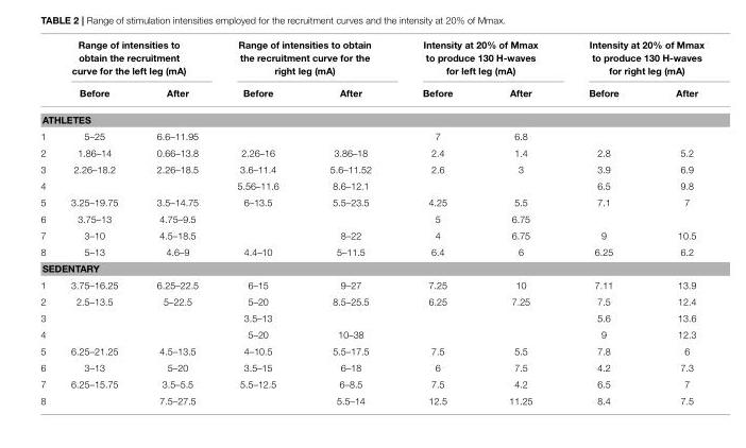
<table><thead><tr><td rowspan="2"></td><td colspan="2">Range of intensities to obtain the recruitment curve for the left leg (mA)</td><td colspan="2">Range of intensities to obtain the recruitment curve for the right leg (mA)</td><td colspan="2">Intensity at 20% of Mmax to produce 130 H-waves for left leg (mA)</td><td colspan="2">Intensity at 20% of Mmax to produce 130 H-waves for right leg (mA)</td></tr><tr><td>Before</td><td>After</td><td>Before</td><td>After</td><td>Before</td><td>After</td><td>Before</td><td>After</td></tr></thead><tbody><tr><td colspan="9">ATHLETES</td></tr><tr><td>1</td><td>5–25</td><td>6.6–11.95</td><td></td><td></td><td>7</td><td>6.8</td><td></td><td></td></tr><tr><td>2</td><td>1.86–14</td><td>0.66–13.8</td><td>2.26–16</td><td>3.86–18</td><td>2.4</td><td>1.4</td><td>2.8</td><td>5.2</td></tr><tr><td>3</td><td>2.26–18.2</td><td>2.26–18.5</td><td>3.6–11.4</td><td>5.6–11.52</td><td>2.6</td><td>3</td><td>3.9</td><td>6.9</td></tr><tr><td>4</td><td></td><td></td><td>5.56–11.6</td><td>8.6–12.1</td><td></td><td></td><td>6.5</td><td>9.8</td></tr><tr><td>5</td><td>3.25–19.75</td><td>3.5–14.75</td><td>6–13.5</td><td>5.5–23.5</td><td>4.25</td><td>5.5</td><td>7.1</td><td>7</td></tr><tr><td>6</td><td>3.75–13</td><td>4.75–9.5</td><td></td><td></td><td>5</td><td>6.75</td><td></td><td></td></tr><tr><td>7</td><td>3–10</td><td>4.5–18.5</td><td></td><td>8–22</td><td>4</td><td>6.75</td><td>9</td><td>10.5</td></tr><tr><td>8</td><td>5–13</td><td>4.6–9</td><td>4.4–10</td><td>5–11.5</td><td>6.4</td><td>6</td><td>6.25</td><td>6.2</td></tr><tr><td colspan="9">SEDENTARY</td></tr><tr><td>1</td><td>3.75–16.25</td><td>6.25–22.5</td><td>6–15</td><td>9–27</td><td>7.25</td><td>10</td><td>7.11</td><td>13.9</td></tr><tr><td>2</td><td>2.5–13.5</td><td>5–22.5</td><td>5–20</td><td>8.5–25.5</td><td>6.25</td><td>7.25</td><td>7.5</td><td>12.4</td></tr><tr><td>3</td><td></td><td></td><td>3.5–13</td><td></td><td></td><td></td><td>5.6</td><td>13.6</td></tr><tr><td>4</td><td></td><td></td><td>5–20</td><td>10–38</td><td></td><td></td><td>9</td><td>12.3</td></tr><tr><td>5</td><td>6.25–21.25</td><td>4.5–13.5</td><td>4–10.5</td><td>5.5–17.5</td><td>7.5</td><td>5.5</td><td>7.8</td><td>6</td></tr><tr><td>6</td><td>3–13</td><td>5–20</td><td>3.5–15</td><td>6–18</td><td>6</td><td>7.5</td><td>4.2</td><td>7.3</td></tr><tr><td>7</td><td>6.25–15.75</td><td>3.5–5.5</td><td>5.5–12.5</td><td>6–8.5</td><td>7.5</td><td>4.2</td><td>6.5</td><td>7</td></tr><tr><td>8</td><td></td><td>7.5–27.5</td><td></td><td>5.5–14</td><td>12.5</td><td>11.25</td><td>8.4</td><td>7.5</td></tr></tbody></table>